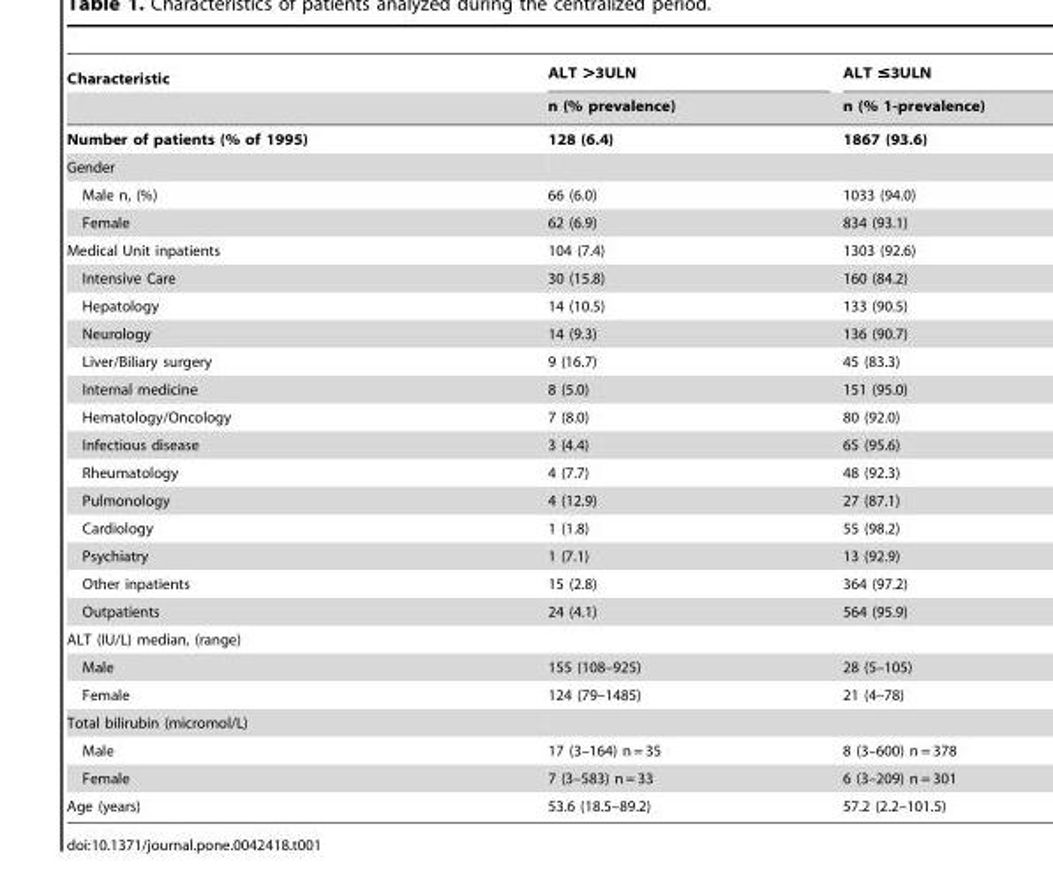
<table><thead><tr><td rowspan="2">Characteristic</td><td rowspan="2">ALT &gt;3ULN n (% prevalence)</td><td rowspan="2">ALT ≤3ULN n (% 1-prevalence)</td></tr><tr></tr></thead><tbody><tr><td>Number of patients (% of 1995)</td><td>128 (6.4)</td><td>1867 (93.6)</td></tr><tr><td colspan="3">Gender</td></tr><tr><td>Male n, (%)</td><td>66 (6.0)</td><td>1033 (94.0)</td></tr><tr><td>Female</td><td>62 (6.9)</td><td>834 (93.1)</td></tr><tr><td>Medical Unit inpatients</td><td>104 (7.4)</td><td>1303 (92.6)</td></tr><tr><td>Intensive Care</td><td>30 (15.8)</td><td>160 (84.2)</td></tr><tr><td>Hepatology</td><td>14 (10.5)</td><td>133 (90.5)</td></tr><tr><td>Neurology</td><td>14 (9.3)</td><td>136 (90.7)</td></tr><tr><td>Liver/Biliary surgery</td><td>9 (16.7)</td><td>45 (83.3)</td></tr><tr><td>Internal medicine</td><td>8 (5.0)</td><td>151 (95.0)</td></tr><tr><td>Hematology/Oncology</td><td>7 (8.0)</td><td>80 (92.0)</td></tr><tr><td>Infectious disease</td><td>3 (4.4)</td><td>65 (95.6)</td></tr><tr><td>Rheumatology</td><td>4 (7.7)</td><td>48 (92.3)</td></tr><tr><td>Pulmonology</td><td>4 (12.9)</td><td>27 (87.1)</td></tr><tr><td>Cardiology</td><td>1 (1.8)</td><td>55 (98.2)</td></tr><tr><td>Psychiatry</td><td>1 (7.1)</td><td>13 (92.9)</td></tr><tr><td>Other inpatients</td><td>15 (2.8)</td><td>364 (97.2)</td></tr><tr><td>Outpatients</td><td>24 (4.1)</td><td>564 (95.9)</td></tr><tr><td colspan="3">ALT (IU/L) median, (range)</td></tr><tr><td>Male</td><td>155 (108–925)</td><td>28 (5–105)</td></tr><tr><td>Female</td><td>124 (79–1485)</td><td>21 (4–78)</td></tr><tr><td colspan="3">Total bilirubin (micromol/L)</td></tr><tr><td>Male</td><td>17 (3–164) n = 35</td><td>8 (3–600) n = 378</td></tr><tr><td>Female</td><td>7 (3–583) n = 33</td><td>6 (3–209) n = 301</td></tr><tr><td>Age (years)</td><td>53.6 (18.5–89.2)</td><td>57.2 (2.2–101.5)</td></tr></tbody></table>